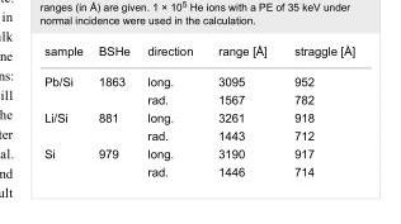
<table><tbody><tr><td>sample</td><td>BSHe</td><td>direction</td><td>range [Å]</td><td>straggle [Å]</td></tr><tr><td rowspan="2">Pb/Si</td><td>1863</td><td>long.</td><td>3095</td><td>952</td></tr><tr><td></td><td>rad.</td><td>1567</td><td>782</td></tr><tr><td rowspan="2">Li/Si</td><td>881</td><td>long.</td><td>3261</td><td>918</td></tr><tr><td></td><td>rad.</td><td>1443</td><td>712</td></tr><tr><td rowspan="2">Si</td><td>979</td><td>long.</td><td>3190</td><td>917</td></tr><tr><td></td><td>rad.</td><td>1446</td><td>714</td></tr></tbody></table>